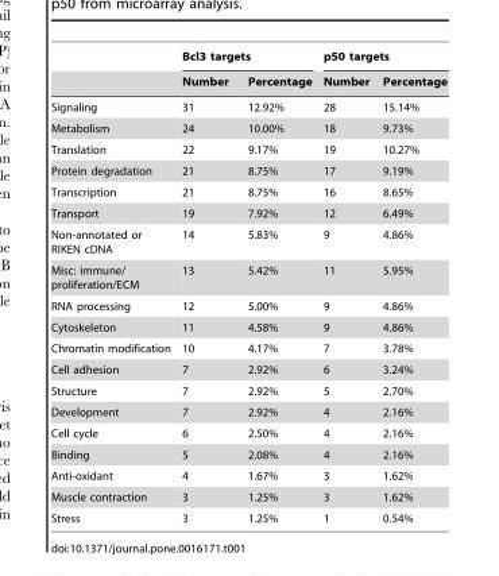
<table><thead><tr><td rowspan="2"></td><td colspan="2">Bcl3 targets</td><td colspan="2">p50 targets</td></tr><tr><td>Number</td><td>Percentage</td><td>Number</td><td>Percentage</td></tr></thead><tbody><tr><td>Signaling</td><td>31</td><td>12.92%</td><td>28</td><td>15.14%</td></tr><tr><td>Metabolism</td><td>24</td><td>10.00%</td><td>18</td><td>9.73%</td></tr><tr><td>Translation</td><td>22</td><td>9.17%</td><td>19</td><td>10.27%</td></tr><tr><td>Protein degradation</td><td>21</td><td>8.75%</td><td>17</td><td>9.19%</td></tr><tr><td>Transcription</td><td>21</td><td>8.75%</td><td>16</td><td>8.65%</td></tr><tr><td>Transport</td><td>19</td><td>7.92%</td><td>12</td><td>6.49%</td></tr><tr><td>Non-annotated or RIKEN cDNA</td><td>14</td><td>5.83%</td><td>9</td><td>4.86%</td></tr><tr><td>Misc: immune/ proliferation/ECM</td><td>13</td><td>5.42%</td><td>11</td><td>5.95%</td></tr><tr><td>RNA processing</td><td>12</td><td>5.00%</td><td>9</td><td>4.86%</td></tr><tr><td>Cytoskeleton</td><td>11</td><td>4.58%</td><td>9</td><td>4.86%</td></tr><tr><td>Chromatin modification</td><td>10</td><td>4.17%</td><td>7</td><td>3.78%</td></tr><tr><td>Cell adhesion</td><td>7</td><td>2.92%</td><td>6</td><td>3.24%</td></tr><tr><td>Structure</td><td>7</td><td>2.92%</td><td>5</td><td>2.70%</td></tr><tr><td>Development</td><td>7</td><td>2.92%</td><td>4</td><td>2.16%</td></tr><tr><td>Cell cycle</td><td>6</td><td>2.50%</td><td>4</td><td>2.16%</td></tr><tr><td>Binding</td><td>5</td><td>2.08%</td><td>4</td><td>2.16%</td></tr><tr><td>Anti-oxidant</td><td>4</td><td>1.67%</td><td>3</td><td>1.62%</td></tr><tr><td>Muscle contraction</td><td>3</td><td>1.25%</td><td>3</td><td>1.62%</td></tr><tr><td>Stress</td><td>3</td><td>1.25%</td><td>1</td><td>0.54%</td></tr></tbody></table>